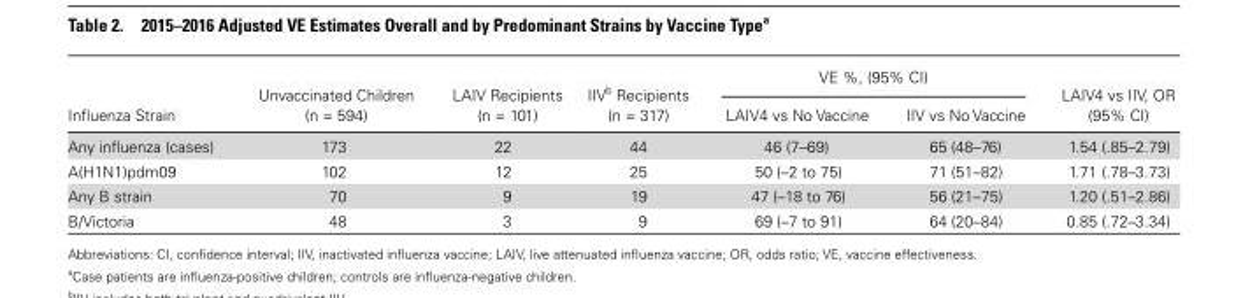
<table><thead><tr><td rowspan="2">Influenza Strain</td><td rowspan="2">Unvaccinated Children (n = 594)</td><td rowspan="2">LAIV Recipients (n = 101)</td><td rowspan="2">IIV<sup>b</sup> Recipients (n = 317)</td><td colspan="2">VE %, (95% CI)</td><td rowspan="2">LAIV4 vs IIV, OR (95% CI)</td></tr><tr><td>LAIV4 vs No Vaccine</td><td>IIV vs No Vaccine</td></tr></thead><tbody><tr><td>Any influenza (cases)</td><td>173</td><td>22</td><td>44</td><td>46 (7–69)</td><td>65 (48–76)</td><td>1.54 (.85–2.79)</td></tr><tr><td>A(H1N1)pdm09</td><td>102</td><td>12</td><td>25</td><td>50 (–2 to 75)</td><td>71 (51–82)</td><td>1.71 (.78–3.73)</td></tr><tr><td>Any B strain</td><td>70</td><td>9</td><td>19</td><td>47 (–18 to 76)</td><td>56 (21–75)</td><td>1.20 (.51–2.86)</td></tr><tr><td>B/Victoria</td><td>48</td><td>3</td><td>9</td><td>69 (–7 to 91)</td><td>64 (20–84)</td><td>0.85 (.72–3.34)</td></tr></tbody></table>